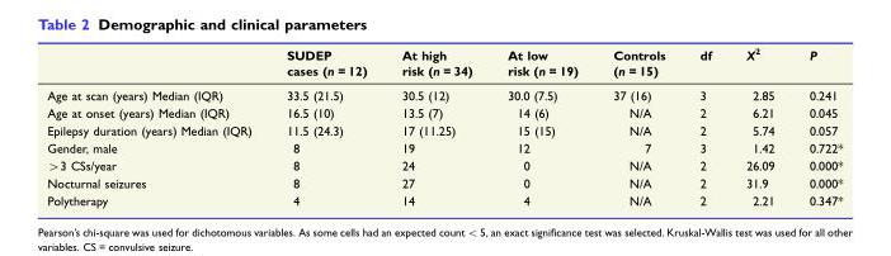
<table><thead><tr><td></td><td>SUDEP cases (n = 12)</td><td>At high risk (n = 34)</td><td>At low risk (n = 19)</td><td>Controls (n = 15)</td><td>df</td><td>X<sup>2</sup></td><td>P</td></tr></thead><tbody><tr><td>Age at scan (years) Median (IQR)</td><td>33.5 (21.5)</td><td>30.5 (12)</td><td>30.0 (7.5)</td><td>37 (16)</td><td>3</td><td>2.85</td><td>0.241</td></tr><tr><td>Age at onset (years) Median (IQR)</td><td>16.5 (10)</td><td>13.5 (7)</td><td>14 (6)</td><td>N/A</td><td>2</td><td>6.21</td><td>0.045</td></tr><tr><td>Epilepsy duration (years) Median (IQR)</td><td>11.5 (24.3)</td><td>17 (11.25)</td><td>15 (15)</td><td>N/A</td><td>2</td><td>5.74</td><td>0.057</td></tr><tr><td>Gender, male</td><td>8</td><td>19</td><td>12</td><td>7</td><td>3</td><td>1.42</td><td>0.722*</td></tr><tr><td>&gt;3 CSs/year</td><td>8</td><td>24</td><td>0</td><td>N/A</td><td>2</td><td>26.09</td><td>0.000*</td></tr><tr><td>Nocturnal seizures</td><td>8</td><td>27</td><td>0</td><td>N/A</td><td>2</td><td>31.9</td><td>0.000*</td></tr><tr><td>Polytherapy</td><td>4</td><td>14</td><td>4</td><td>N/A</td><td>2</td><td>2.21</td><td>0.347*</td></tr></tbody></table>